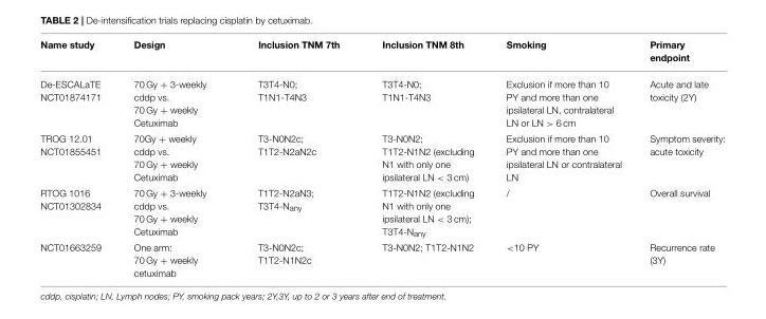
<table><thead><tr><td>Name study</td><td>Design</td><td>Inclusion TNM 7th</td><td>Inclusion TNM 8th</td><td>Smoking</td><td>Primary endpoint</td></tr></thead><tbody><tr><td>De-ESCALaTE NCT01874171</td><td>70 Gy + 3-weekly cddp vs. 70 Gy + weekly Cetuximab</td><td>T3T4-N0; T1N1-T4N3</td><td>T3T4-N0; T1N1-T4N3</td><td>Exclusion if more than 10 PY and more than one ipsilateral LN, contralateral LN or LN &gt; 6 cm</td><td>Acute and late toxicity (2Y)</td></tr><tr><td>TROG 12.01 NCT01855451</td><td>70Gy + weekly cddp vs. 70 Gy + weekly Cetuximab</td><td>T3-N0N2c; T1T2-N2aN2c</td><td>T3-N0N2; T1T2-N1N2 (excluding N1 with only one ipsilateral LN &lt; 3 cm)</td><td>Exclusion if more than 10 PY and more than one ipsilateral LN or contralateral LN</td><td>Symptom severity: acute toxicity</td></tr><tr><td>RTOG 1016 NCT01302834</td><td>70 Gy + 3-weekly cddp vs. 70 Gy + weekly Cetuximab</td><td>T1T2-N2aN3; T3T4-N<sub>any</sub></td><td>T1T2-N1N2 (excluding N1 with only one ipsilateral LN &lt; 3 cm); T3T4-N<sub>any</sub></td><td>/</td><td>Overall survival</td></tr><tr><td>NCT01663259</td><td>One arm: 70 Gy + weekly cetuximab</td><td>T3-N0N2c; T1T2-N1N2c</td><td>T3-N0N2; T1T2-N1N2</td><td>&lt;10 PY</td><td>Recurrence rate (3Y)</td></tr></tbody></table>